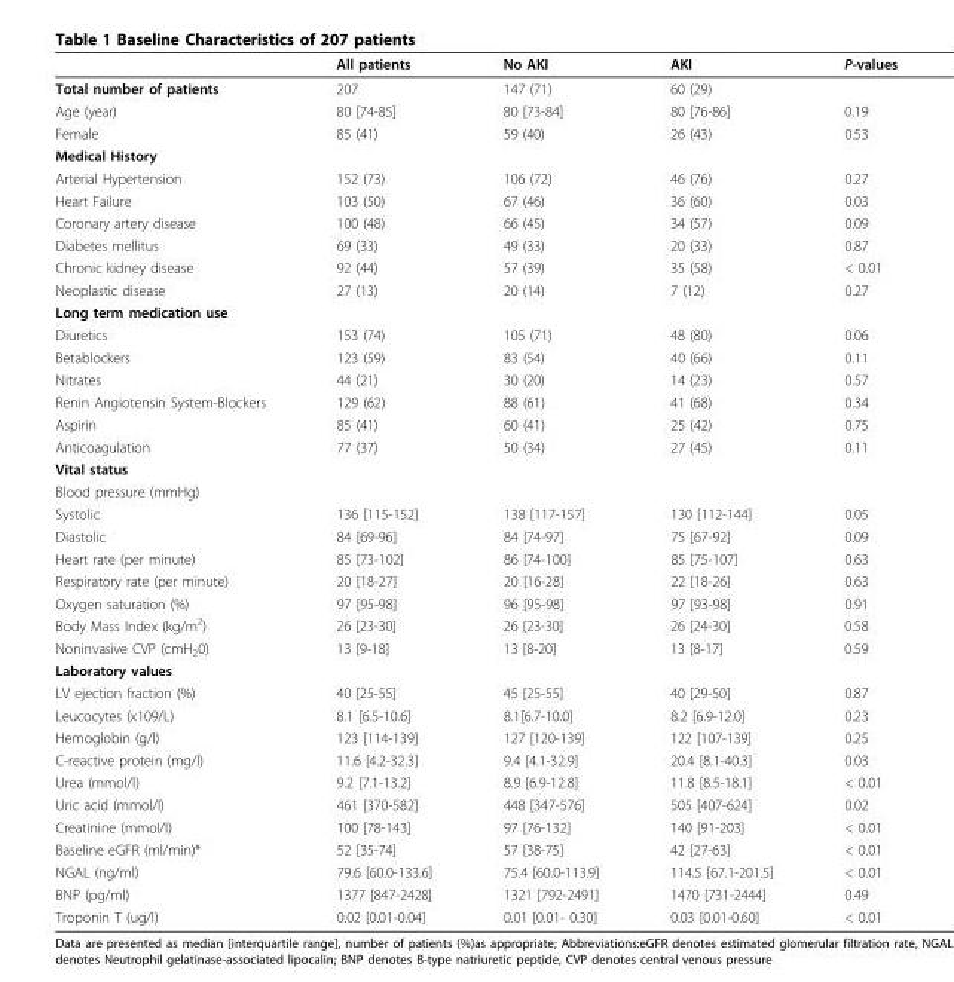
<table><thead><tr><td></td><td>All patients</td><td>No AKI</td><td>AKI</td><td>P-values</td></tr></thead><tbody><tr><td>Total number of patients</td><td>207</td><td>147 (71)</td><td>60 (29)</td><td></td></tr><tr><td>Age (year)</td><td>80 [74-85]</td><td>80 [73-84]</td><td>80 [76-86]</td><td>0.19</td></tr><tr><td>Female</td><td>85 (41)</td><td>59 (40)</td><td>26 (43)</td><td>0.53</td></tr><tr><td colspan="5">Medical History</td></tr><tr><td>Arterial Hypertension</td><td>152 (73)</td><td>106 (72)</td><td>46 (76)</td><td>0.27</td></tr><tr><td>Heart Failure</td><td>103 (50)</td><td>67 (46)</td><td>36 (60)</td><td>0.03</td></tr><tr><td>Coronary artery disease</td><td>100 (48)</td><td>66 (45)</td><td>34 (57)</td><td>0.09</td></tr><tr><td>Diabetes mellitus</td><td>69 (33)</td><td>49 (33)</td><td>20 (33)</td><td>0.87</td></tr><tr><td>Chronic kidney disease</td><td>92 (44)</td><td>57 (39)</td><td>35 (58)</td><td>&lt; 0.01</td></tr><tr><td>Neoplastic disease</td><td>27 (13)</td><td>20 (14)</td><td>7 (12)</td><td>0.27</td></tr><tr><td colspan="5">Long term medication use</td></tr><tr><td>Diuretics</td><td>153 (74)</td><td>105 (71)</td><td>48 (80)</td><td>0.06</td></tr><tr><td>Betablockers</td><td>123 (59)</td><td>83 (54)</td><td>40 (66)</td><td>0.11</td></tr><tr><td>Nitrates</td><td>44 (21)</td><td>30 (20)</td><td>14 (23)</td><td>0.57</td></tr><tr><td>Renin Angiotensin System-Blockers</td><td>129 (62)</td><td>88 (61)</td><td>41 (68)</td><td>0.34</td></tr><tr><td>Aspirin</td><td>85 (41)</td><td>60 (41)</td><td>25 (42)</td><td>0.75</td></tr><tr><td>Anticoagulation</td><td>77 (37)</td><td>50 (34)</td><td>27 (45)</td><td>0.11</td></tr><tr><td colspan="5">Vital status</td></tr><tr><td colspan="5">Blood pressure (mmHg)</td></tr><tr><td>Systolic</td><td>136 [115-152]</td><td>138 [117-157]</td><td>130 [112-144]</td><td>0.05</td></tr><tr><td>Diastolic</td><td>84 [69-96]</td><td>84 [74-97]</td><td>75 [67-92]</td><td>0.09</td></tr><tr><td>Heart rate (per minute)</td><td>85 [73-102]</td><td>86 [74-100]</td><td>85 [75-107]</td><td>0.63</td></tr><tr><td>Respiratory rate (per minute)</td><td>20 [18-27]</td><td>20 [16-28]</td><td>22 [18-26]</td><td>0.63</td></tr><tr><td>Oxygen saturation (%)</td><td>97 [95-98]</td><td>96 [95-98]</td><td>97 [93-98]</td><td>0.91</td></tr><tr><td>Body Mass Index (kg/m<sup>2</sup>)</td><td>26 [23-30]</td><td>26 [23-30]</td><td>26 [24-30]</td><td>0.58</td></tr><tr><td>Noninvasive CVP (cmH<sub>2</sub>0)</td><td>13 [9-18]</td><td>13 [8-20]</td><td>13 [8-17]</td><td>0.59</td></tr><tr><td colspan="5">Laboratory values</td></tr><tr><td>LV ejection fraction (%)</td><td>40 [25-55]</td><td>45 [25-55]</td><td>40 [29-50]</td><td>0.87</td></tr><tr><td>Leucocytes (x109/L)</td><td>8.1 [6.5-10.6]</td><td>8.1[6.7-10.0]</td><td>8.2 [6.9-12.0]</td><td>0.23</td></tr><tr><td>Hemoglobin (g/l)</td><td>123 [114-139]</td><td>127 [120-139]</td><td>122 [107-139]</td><td>0.25</td></tr><tr><td>C-reactive protein (mg/l)</td><td>11.6 [4.2-32.3]</td><td>9.4 [4.1-32.9]</td><td>20.4 [8.1-40.3]</td><td>0.03</td></tr><tr><td>Urea (mmol/l)</td><td>9.2 [7.1-13.2]</td><td>8.9 [6.9-12.8]</td><td>11.8 [8.5-18.1]</td><td>&lt; 0.01</td></tr><tr><td>Uric acid (mmol/l)</td><td>461 [370-582]</td><td>448 [347-576]</td><td>505 [407-624]</td><td>0.02</td></tr><tr><td>Creatinine (mmol/l)</td><td>100 [78-143]</td><td>97 [76-132]</td><td>140 [91-203]</td><td>&lt; 0.01</td></tr><tr><td>Baseline eGFR (ml/min)*</td><td>52 [35-74]</td><td>57 [38-75]</td><td>42 [27-63]</td><td>&lt; 0.01</td></tr><tr><td>NGAL (ng/ml)</td><td>79.6 [60.0-133.6]</td><td>75.4 [60.0-113.9]</td><td>114.5 [67.1-201.5]</td><td>&lt; 0.01</td></tr><tr><td>BNP (pg/ml)</td><td>1377 [847-2428]</td><td>1321 [792-2491]</td><td>1470 [731-2444]</td><td>0.49</td></tr><tr><td>Troponin T (ug/l)</td><td>0.02 [0.01-0.04]</td><td>0.01 [0.01- 0.30]</td><td>0.03 [0.01-0.60]</td><td>&lt; 0.01</td></tr></tbody></table>